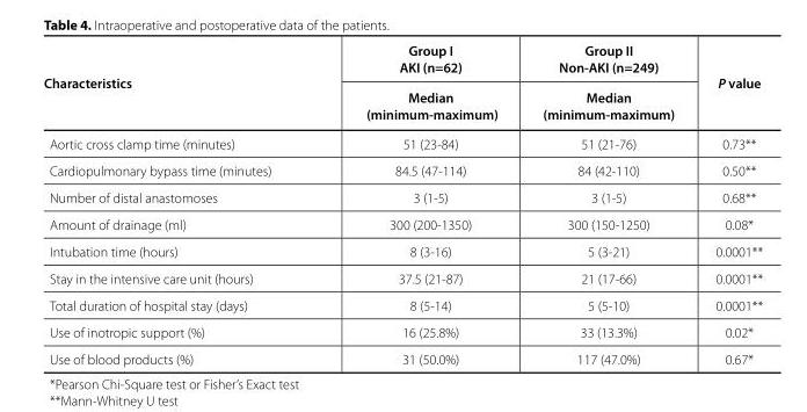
<table><thead><tr><td rowspan="2">Characteristics</td><td rowspan="2">Group I AKI (n=62) Median (minimum-maximum)</td><td rowspan="2">Group II Non-AKI (n=249) Median (minimum-maximum)</td><td rowspan="2">P value</td></tr><tr></tr></thead><tbody><tr><td>Aortic cross clamp time (minutes)</td><td>51 (23-84)</td><td>51 (21-76)</td><td>0.73**</td></tr><tr><td>Cardiopulmonary bypass time (minutes)</td><td>84.5 (47-114)</td><td>84 (42-110)</td><td>0.50**</td></tr><tr><td>Number of distal anastomoses</td><td>3 (1-5)</td><td>3 (1-5)</td><td>0.68**</td></tr><tr><td>Amount of drainage (ml)</td><td>300 (200-1350)</td><td>300 (150-1250)</td><td>0.08*</td></tr><tr><td>Intubation time (hours)</td><td>8 (3-16)</td><td>5 (3-21)</td><td>0.0001**</td></tr><tr><td>Stay in the intensive care unit (hours)</td><td>37.5 (21-87)</td><td>21 (17-66)</td><td>0.0001**</td></tr><tr><td>Total duration of hospital stay (days)</td><td>8 (5-14)</td><td>5 (5-10)</td><td>0.0001**</td></tr><tr><td>Use of inotropic support (%)</td><td>16 (25.8%)</td><td>33 (13.3%)</td><td>0.02*</td></tr><tr><td>Use of blood products (%)</td><td>31 (50.0%)</td><td>117 (47.0%)</td><td>0.67*</td></tr></tbody></table>